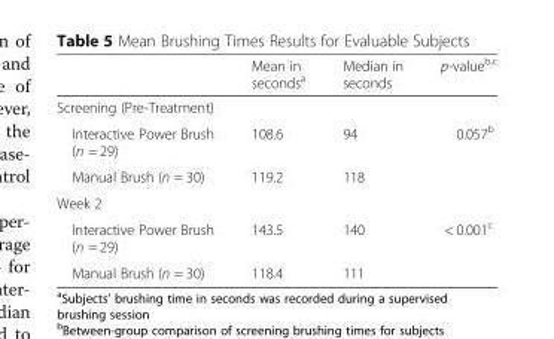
<table><thead><tr><td></td><td>Mean in seconds<sup>a</sup></td><td>Median in seconds</td><td>p-value<sup>b,c</sup></td></tr></thead><tbody><tr><td colspan="4">Screening (Pre-Treatment)</td></tr><tr><td>Interactive Power Brush (n = 29)</td><td>108.6</td><td>94</td><td>0.057<sup>b</sup></td></tr><tr><td>Manual Brush (n = 30)</td><td>119.2</td><td>118</td><td></td></tr><tr><td colspan="4">Week 2</td></tr><tr><td>Interactive Power Brush (n = 29)</td><td>143.5</td><td>140</td><td>&lt; 0.001<sup>c</sup></td></tr><tr><td>Manual Brush (n = 30)</td><td>118.4</td><td>111</td><td></td></tr></tbody></table>